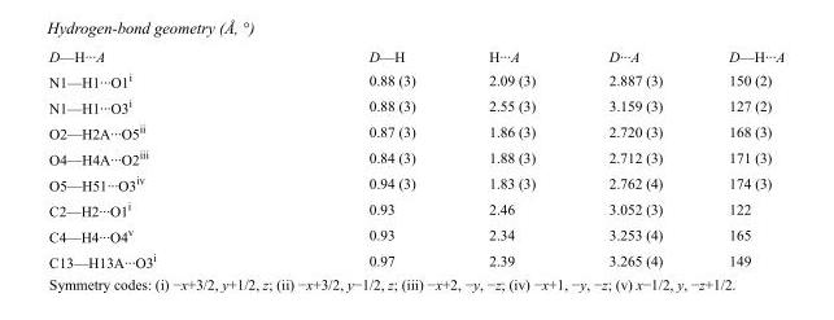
<table><tbody><tr><td>D—H···A</td><td>D—H</td><td>H···A</td><td>D···A</td><td>D—H···A</td></tr><tr><td>N1—H1···O1<sup>i</sup></td><td>0.88 (3)</td><td>2.09 (3)</td><td>2.887 (3)</td><td>150 (2)</td></tr><tr><td>N1—H1···O3<sup>i</sup></td><td>0.88 (3)</td><td>2.55 (3)</td><td>3.159 (3)</td><td>127 (2)</td></tr><tr><td>O2—H2A···O5<sup>ii</sup></td><td>0.87 (3)</td><td>1.86 (3)</td><td>2.720 (3)</td><td>168 (3)</td></tr><tr><td>O4—H4A···O2<sup>iii</sup></td><td>0.84 (3)</td><td>1.88 (3)</td><td>2.712 (3)</td><td>171 (3)</td></tr><tr><td>O5—H51···O3<sup>iv</sup></td><td>0.94 (3)</td><td>1.83 (3)</td><td>2.762 (4)</td><td>174 (3)</td></tr><tr><td>C2—H2···O1<sup>i</sup></td><td>0.93</td><td>2.46</td><td>3.052 (3)</td><td>122</td></tr><tr><td>C4—H4···O4<sup>v</sup></td><td>0.93</td><td>2.34</td><td>3.253 (4)</td><td>165</td></tr><tr><td>C13—H13A···O3<sup>i</sup></td><td>0.97</td><td>2.39</td><td>3.265 (4)</td><td>149</td></tr></tbody></table>